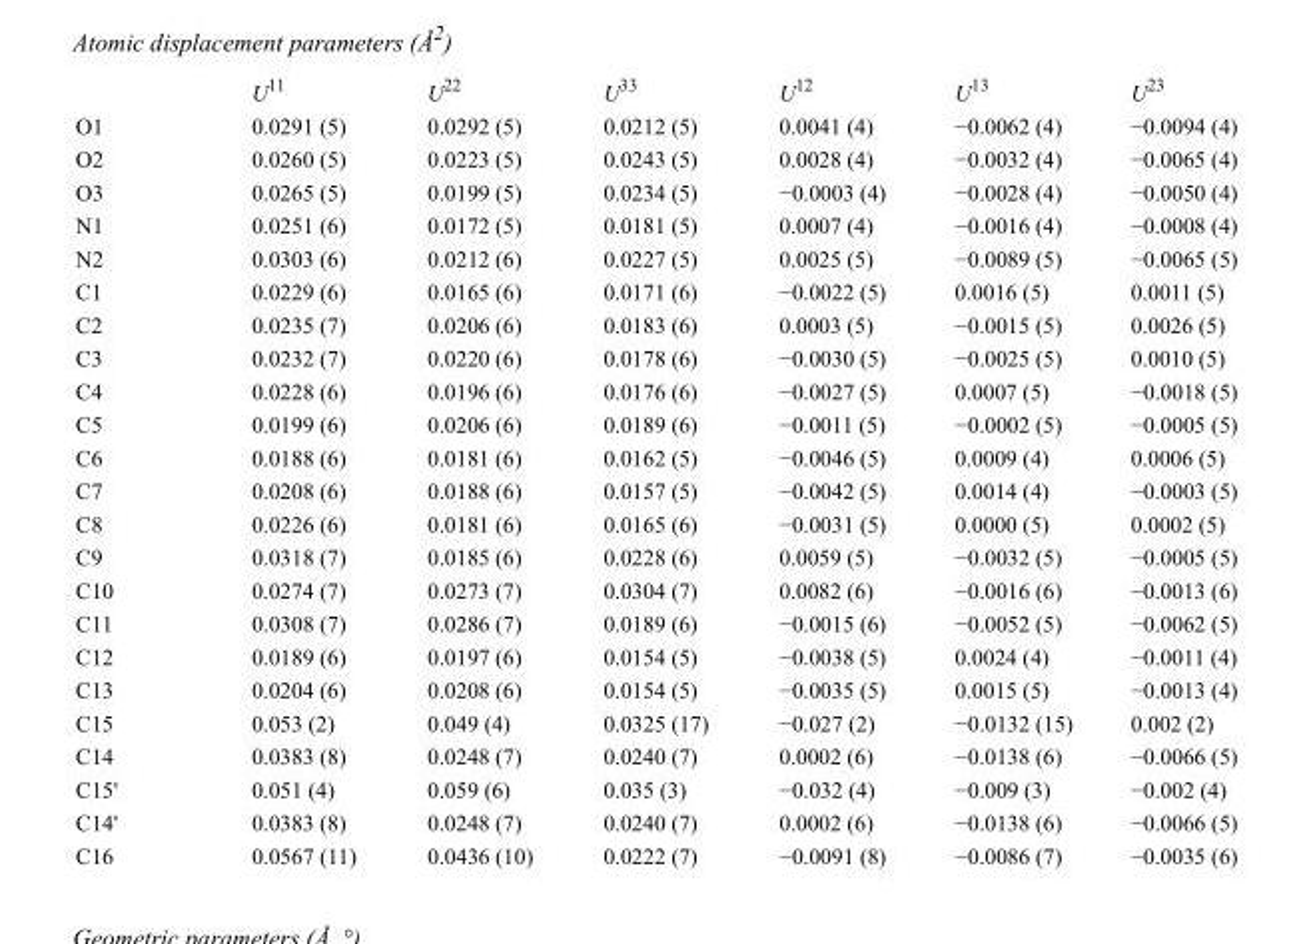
<table><thead><tr><td></td><td>U<sup>11</sup></td><td>U<sup>22</sup></td><td>U<sup>33</sup></td><td>U<sup>12</sup></td><td>U<sup>13</sup></td><td>U<sup>23</sup></td></tr></thead><tbody><tr><td>O1</td><td>0.0291 (5)</td><td>0.0292 (5)</td><td>0.0212 (5)</td><td>0.0041 (4)</td><td>−0.0062 (4)</td><td>−0.0094 (4)</td></tr><tr><td>O2</td><td>0.0260 (5)</td><td>0.0223 (5)</td><td>0.0243 (5)</td><td>0.0028 (4)</td><td>−0.0032 (4)</td><td>−0.0065 (4)</td></tr><tr><td>O3</td><td>0.0265 (5)</td><td>0.0199 (5)</td><td>0.0234 (5)</td><td>−0.0003 (4)</td><td>−0.0028 (4)</td><td>−0.0050 (4)</td></tr><tr><td>N1</td><td>0.0251 (6)</td><td>0.0172 (5)</td><td>0.0181 (5)</td><td>0.0007 (4)</td><td>−0.0016 (4)</td><td>−0.0008 (4)</td></tr><tr><td>N2</td><td>0.0303 (6)</td><td>0.0212 (6)</td><td>0.0227 (5)</td><td>0.0025 (5)</td><td>−0.0089 (5)</td><td>−0.0065 (5)</td></tr><tr><td>C1</td><td>0.0229 (6)</td><td>0.0165 (6)</td><td>0.0171 (6)</td><td>−0.0022 (5)</td><td>0.0016 (5)</td><td>0.0011 (5)</td></tr><tr><td>C2</td><td>0.0235 (7)</td><td>0.0206 (6)</td><td>0.0183 (6)</td><td>0.0003 (5)</td><td>−0.0015 (5)</td><td>0.0026 (5)</td></tr><tr><td>C3</td><td>0.0232 (7)</td><td>0.0220 (6)</td><td>0.0178 (6)</td><td>−0.0030 (5)</td><td>−0.0025 (5)</td><td>0.0010 (5)</td></tr><tr><td>C4</td><td>0.0228 (6)</td><td>0.0196 (6)</td><td>0.0176 (6)</td><td>−0.0027 (5)</td><td>0.0007 (5)</td><td>−0.0018 (5)</td></tr><tr><td>C5</td><td>0.0199 (6)</td><td>0.0206 (6)</td><td>0.0189 (6)</td><td>−0.0011 (5)</td><td>−0.0002 (5)</td><td>−0.0005 (5)</td></tr><tr><td>C6</td><td>0.0188 (6)</td><td>0.0181 (6)</td><td>0.0162 (5)</td><td>−0.0046 (5)</td><td>0.0009 (4)</td><td>0.0006 (5)</td></tr><tr><td>C7</td><td>0.0208 (6)</td><td>0.0188 (6)</td><td>0.0157 (5)</td><td>−0.0042 (5)</td><td>0.0014 (4)</td><td>−0.0003 (5)</td></tr><tr><td>C8</td><td>0.0226 (6)</td><td>0.0181 (6)</td><td>0.0165 (6)</td><td>−0.0031 (5)</td><td>0.0000 (5)</td><td>0.0002 (5)</td></tr><tr><td>C9</td><td>0.0318 (7)</td><td>0.0185 (6)</td><td>0.0228 (6)</td><td>0.0059 (5)</td><td>−0.0032 (5)</td><td>−0.0005 (5)</td></tr><tr><td>C10</td><td>0.0274 (7)</td><td>0.0273 (7)</td><td>0.0304 (7)</td><td>0.0082 (6)</td><td>−0.0016 (6)</td><td>−0.0013 (6)</td></tr><tr><td>C11</td><td>0.0308 (7)</td><td>0.0286 (7)</td><td>0.0189 (6)</td><td>−0.0015 (6)</td><td>−0.0052 (5)</td><td>−0.0062 (5)</td></tr><tr><td>C12</td><td>0.0189 (6)</td><td>0.0197 (6)</td><td>0.0154 (5)</td><td>−0.0038 (5)</td><td>0.0024 (4)</td><td>−0.0011 (4)</td></tr><tr><td>C13</td><td>0.0204 (6)</td><td>0.0208 (6)</td><td>0.0154 (5)</td><td>−0.0035 (5)</td><td>0.0015 (5)</td><td>−0.0013 (4)</td></tr><tr><td>C15</td><td>0.053 (2)</td><td>0.049 (4)</td><td>0.0325 (17)</td><td>−0.027 (2)</td><td>−0.0132 (15)</td><td>0.002 (2)</td></tr><tr><td>C14</td><td>0.0383 (8)</td><td>0.0248 (7)</td><td>0.0240 (7)</td><td>0.0002 (6)</td><td>−0.0138 (6)</td><td>−0.0066 (5)</td></tr><tr><td>C15&#x27;</td><td>0.051 (4)</td><td>0.059 (6)</td><td>0.035 (3)</td><td>−0.032 (4)</td><td>−0.009 (3)</td><td>−0.002 (4)</td></tr><tr><td>C14&#x27;</td><td>0.0383 (8)</td><td>0.0248 (7)</td><td>0.0240 (7)</td><td>0.0002 (6)</td><td>−0.0138 (6)</td><td>−0.0066 (5)</td></tr><tr><td>C16</td><td>0.0567 (11)</td><td>0.0436 (10)</td><td>0.0222 (7)</td><td>−0.0091 (8)</td><td>−0.0086 (7)</td><td>−0.0035 (6)</td></tr></tbody></table>